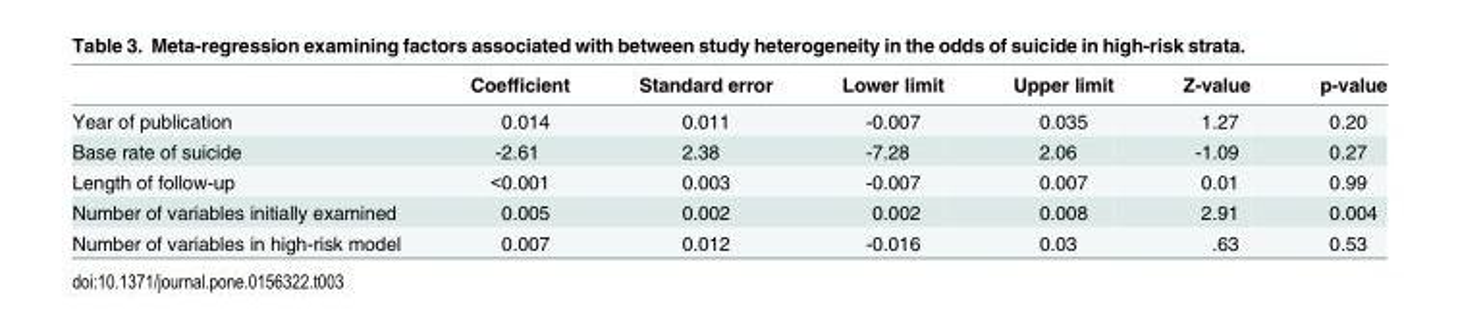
<table><thead><tr><td></td><td>Coefficient</td><td>Standard error</td><td>Lower limit</td><td>Upper limit</td><td>Z-value</td><td>p-value</td></tr></thead><tbody><tr><td>Year of publication</td><td>0.014</td><td>0.011</td><td>-0.007</td><td>0.035</td><td>1.27</td><td>0.20</td></tr><tr><td>Base rate of suicide</td><td>-2.61</td><td>2.38</td><td>-7.28</td><td>2.06</td><td>-1.09</td><td>0.27</td></tr><tr><td>Length of follow-up</td><td>&lt;0.001</td><td>0.003</td><td>-0.007</td><td>0.007</td><td>0.01</td><td>0.99</td></tr><tr><td>Number of variables initially examined</td><td>0.005</td><td>0.002</td><td>0.002</td><td>0.008</td><td>2.91</td><td>0.004</td></tr><tr><td>Number of variables in high-risk model</td><td>0.007</td><td>0.012</td><td>-0.016</td><td>0.03</td><td>.63</td><td>0.53</td></tr></tbody></table>